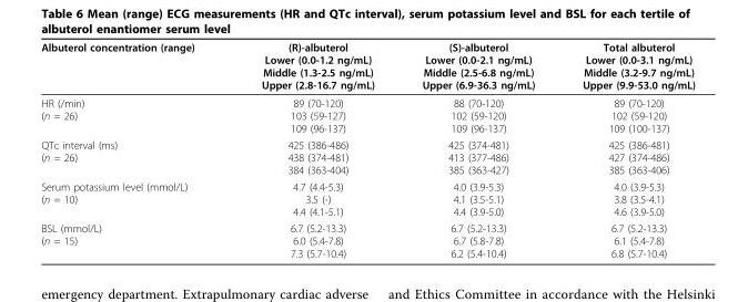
<table><thead><tr><td>Albuterol concentration (range)</td><td>(R)-albuterol Lower (0.0-1.2 ng/mL) Middle (1.3-2.5 ng/mL) Upper (2.8-16.7 ng/mL)</td><td>(S)-albuterol Lower (0.0-2.1 ng/mL) Middle (2.5-6.8 ng/mL) Upper (6.9-36.3 ng/mL)</td><td>Total albuterol Lower (0.0-3.1 ng/mL) Middle (3.2-9.7 ng/mL) Upper (9.9-53.0 ng/mL)</td></tr></thead><tbody><tr><td>HR (/min) (n = 26)</td><td>89 (70-120) 103 (59-127) 109 (96-137)</td><td>88 (70-120) 102 (59-120) 109 (96-137)</td><td>89 (70-120) 102 (59-120) 109 (100-137)</td></tr><tr><td>QTc interval (ms) (n = 26)</td><td>425 (386-486) 438 (374-481) 384 (363-404)</td><td>425 (374-481) 413 (377-486) 385 (363-427)</td><td>425 (386-481) 427 (374-486) 385 (363-406)</td></tr><tr><td>Serum potassium level (mmol/L) (n = 10)</td><td>4.7 (4.4-5.3) 3.5 (-) 4.4 (4.1-5.1)</td><td>4.0 (3.9-5.3) 4.1 (3.5-5.1) 4.4 (3.9-5.0)</td><td>4.0 (3.9-5.3) 3.8 (3.5-4.1) 4.6 (3.9-5.0)</td></tr><tr><td>BSL (mmol/L) (n = 15)</td><td>6.7 (5.2-13.3) 6.0 (5.4-7.8) 7.3 (5.7-10.4)</td><td>6.7 (5.2-13.3) 6.7 (5.8-7.8) 6.2 (5.4-10.4)</td><td>6.7 (5.2-13.3) 6.1 (5.4-7.8) 6.8 (5.7-10.4)</td></tr></tbody></table>